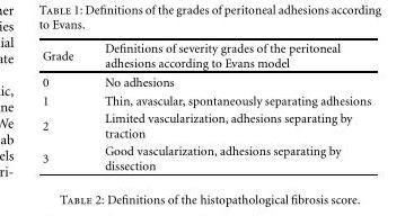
<table><thead><tr><td>Grade</td><td>Definitions of severity grades of the peritoneal adhesions according to Evans model</td></tr></thead><tbody><tr><td>0</td><td>No adhesions</td></tr><tr><td>1</td><td>Thin, avascular, spontaneously separating adhesions</td></tr><tr><td>2</td><td>Limited vascularization, adhesions separating by traction</td></tr><tr><td>3</td><td>Good vascularization, adhesions separating by dissection</td></tr></tbody></table>